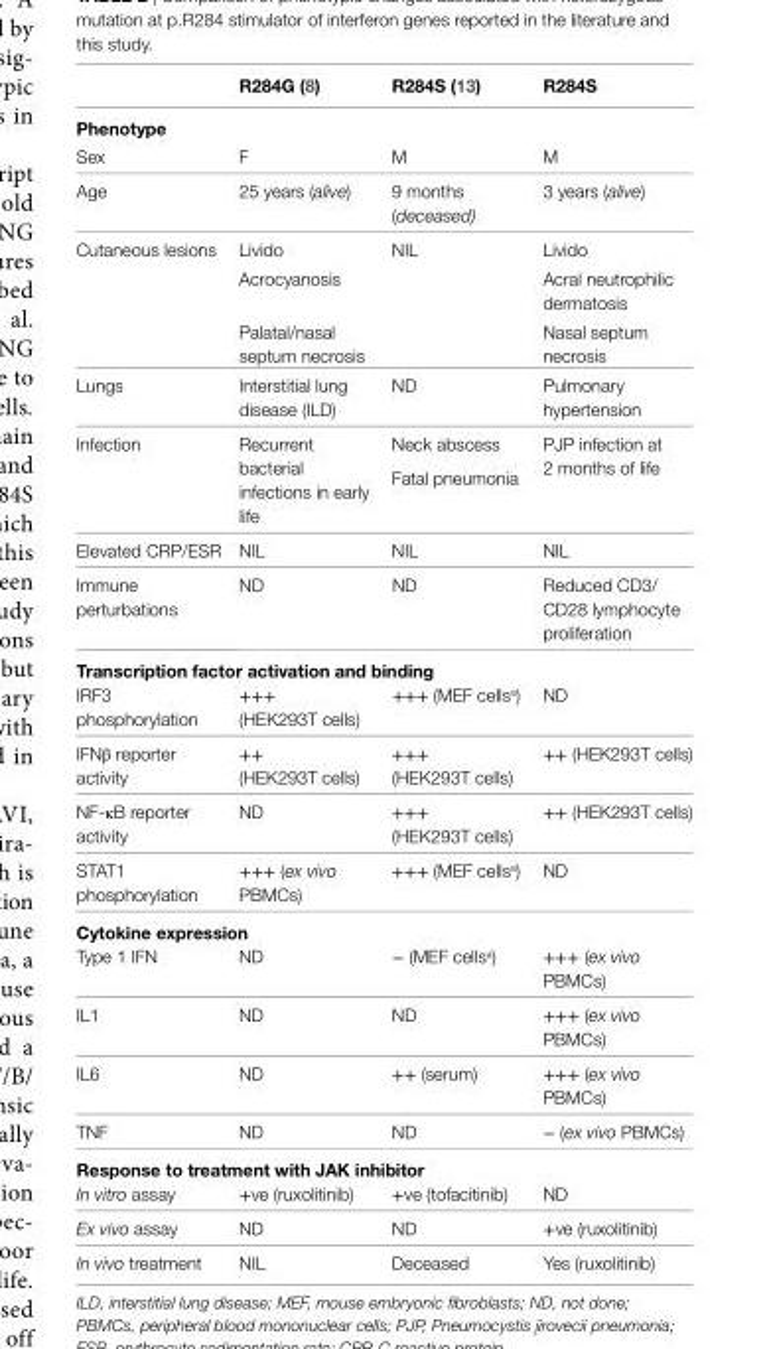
<table><thead><tr><td></td><td>R284G (8)</td><td>R284s (13)</td><td>R284s</td></tr><tr><td colspan="4">phenotype</td></tr></thead><tbody><tr><td>Sex</td><td>F</td><td>M</td><td>M</td></tr><tr><td>Age</td><td>25 years (alive)</td><td>9 months (deceased)</td><td>3 years (alive)</td></tr><tr><td rowspan="3">Cutaneous lesions</td><td>Livido</td><td rowspan="3">NIL</td><td>Livido</td></tr><tr><td>Acrocyanosis</td><td>Acral neutrophilic dermatosis</td></tr><tr><td>Palatal/nasal septum necrosis</td><td>Nasal septum necrosis</td></tr><tr><td>Lungs</td><td>Interstitial lung disease (ILD)</td><td>ND</td><td>Pulmonary hypertension</td></tr><tr><td rowspan="2">Infection</td><td rowspan="2">Recurrent bacterial infections in early life</td><td>Neck abscess</td><td rowspan="2">PJP infection at 2 months of life</td></tr><tr><td>Fatal pneumonia</td></tr><tr><td>Elevated CRP/ESR</td><td>NIL</td><td>NIL</td><td>NIL</td></tr><tr><td>Immune perturbations</td><td>ND</td><td>ND</td><td>Reduced CD3/ CD28 lymphocyte proliferation</td></tr><tr><td colspan="4">transcription factor activation and binding</td></tr><tr><td>IRF3 phosphorylation</td><td>+++ (HEK293T cells)</td><td>+++ (MEF cells<sup>a</sup>)</td><td>ND</td></tr><tr><td>IFNβ reporter activity</td><td>++ (HEK293T cells)</td><td>+++ (HEK293T cells)</td><td>++ (HEK293T cells)</td></tr><tr><td>NF-κB reporter activity</td><td>ND</td><td>+++ (HEK293T cells)</td><td>++ (HEK293T cells)</td></tr><tr><td>STAT1 phosphorylation</td><td>+++ (ex vivo PBMCs)</td><td>+++ (MEF cells<sup>a</sup>)</td><td>ND</td></tr><tr><td colspan="4">Cytokine expression</td></tr><tr><td>Type 1 IFN</td><td>ND</td><td>− (MEF cells<sup>a</sup>)</td><td>+++ (ex vivo PBMCs)</td></tr><tr><td>IL1</td><td>ND</td><td>ND</td><td>+++ (ex vivo PBMCs)</td></tr><tr><td>IL6</td><td>ND</td><td>++ (serum)</td><td>+++ (ex vivo PBMCs)</td></tr><tr><td>TNF</td><td>ND</td><td>ND</td><td>− (ex vivo PBMCs)</td></tr><tr><td colspan="4">Response to treatment with JaK inhibitor</td></tr><tr><td>In vitro assay</td><td>+ve (ruxolitinib)</td><td>+ve (tofacitinib)</td><td>ND</td></tr><tr><td>Ex vivo assay</td><td>ND</td><td>ND</td><td>+ve (ruxolitinib)</td></tr><tr><td>In vivo treatment</td><td>NIL</td><td>Deceased</td><td>Yes (ruxolitinib)</td></tr></tbody></table>